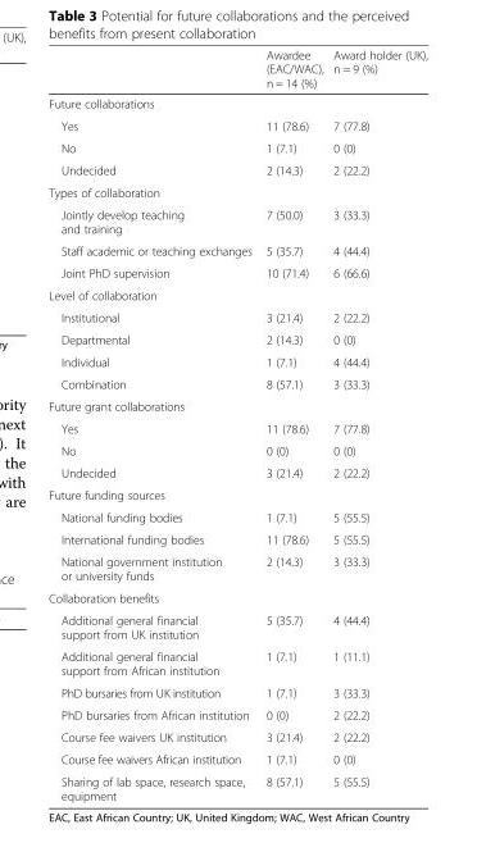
<table><thead><tr><td></td><td>Awardee (EAC/WAC), n = 14 (%)</td><td>Award holder (UK), n = 9 (%)</td></tr></thead><tbody><tr><td colspan="3">Future collaborations</td></tr><tr><td>Yes</td><td>11 (78.6)</td><td>7 (77.8)</td></tr><tr><td>No</td><td>1 (7.1)</td><td>0 (0)</td></tr><tr><td>Undecided</td><td>2 (14.3)</td><td>2 (22.2)</td></tr><tr><td colspan="3">Types of collaboration</td></tr><tr><td>Jointly develop teaching and training</td><td>7 (50.0)</td><td>3 (33.3)</td></tr><tr><td>Staff academic or teaching exchanges</td><td>5 (35.7)</td><td>4 (44.4)</td></tr><tr><td>Joint PhD supervision</td><td>10 (71.4)</td><td>6 (66.6)</td></tr><tr><td colspan="3">Level of collaboration</td></tr><tr><td>Institutional</td><td>3 (21.4)</td><td>2 (22.2)</td></tr><tr><td>Departmental</td><td>2 (14.3)</td><td>0 (0)</td></tr><tr><td>Individual</td><td>1 (7.1)</td><td>4 (44.4)</td></tr><tr><td>Combination</td><td>8 (57.1)</td><td>3 (33.3)</td></tr><tr><td colspan="3">Future grant collaborations</td></tr><tr><td>Yes</td><td>11 (78.6)</td><td>7 (77.8)</td></tr><tr><td>No</td><td>0 (0)</td><td>0 (0)</td></tr><tr><td>Undecided</td><td>3 (21.4)</td><td>2 (22.2)</td></tr><tr><td colspan="3">Future funding sources</td></tr><tr><td>National funding bodies</td><td>1 (7.1)</td><td>5 (55.5)</td></tr><tr><td>International funding bodies</td><td>11 (78.6)</td><td>5 (55.5)</td></tr><tr><td>National government institution or university funds</td><td>2 (14.3)</td><td>3 (33.3)</td></tr><tr><td colspan="3">Collaboration benefits</td></tr><tr><td>Additional general financial support from UK institution</td><td>5 (35.7)</td><td>4 (44.4)</td></tr><tr><td>Additional general financial support from African institution</td><td>1 (7.1)</td><td>1 (11.1)</td></tr><tr><td>PhD bursaries from UK institution</td><td>1 (7.1)</td><td>3 (33.3)</td></tr><tr><td>PhD bursaries from African institution</td><td>0 (0)</td><td>2 (22.2)</td></tr><tr><td>Course fee waivers UK institution</td><td>3 (21.4)</td><td>2 (22.2)</td></tr><tr><td>Course fee waivers African institution</td><td>1 (7.1)</td><td>0 (0)</td></tr><tr><td>Sharing of lab space, research space, equipment</td><td>8 (57.1)</td><td>5 (55.5)</td></tr></tbody></table>